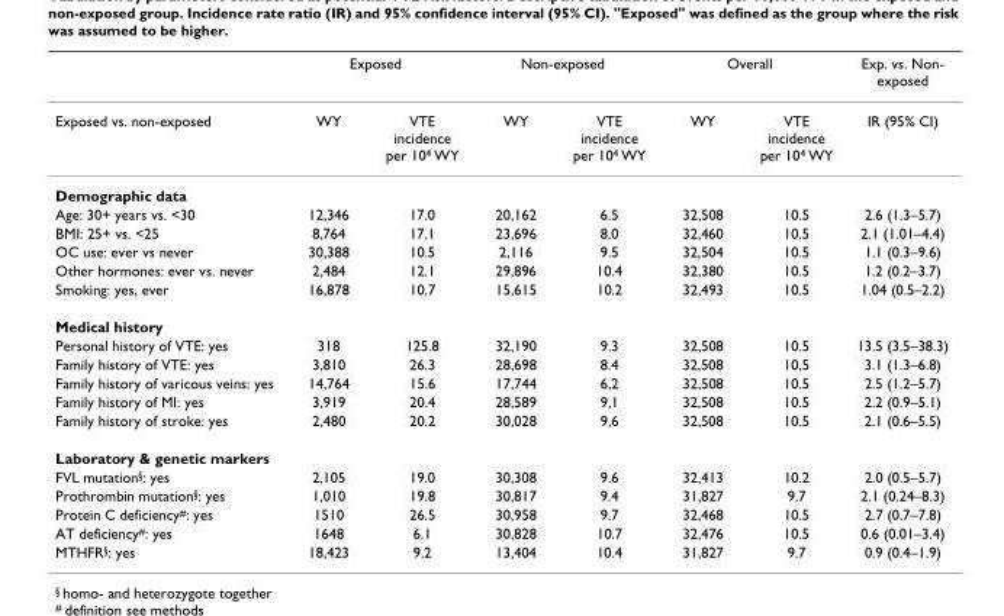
<table><thead><tr><td rowspan="2">Exposed vs. non-exposed</td><td colspan="2">Exposed</td><td colspan="2">Non-exposed</td><td colspan="2">Overall</td><td rowspan="2">Exp. vs. Non- exposed IR (95% CI)</td></tr><tr><td>WY</td><td>VTE incidence per 10<sup>4</sup> WY</td><td>WY</td><td>VTE incidence per 10<sup>4</sup> WY</td><td>WY</td><td>VTE incidence per 10<sup>4</sup> WY</td></tr></thead><tbody><tr><td colspan="8">Demographic data</td></tr><tr><td>Age: 30+ years vs. &lt;30</td><td>12,346</td><td>17.0</td><td>20,162</td><td>6.5</td><td>32,508</td><td>10.5</td><td>2.6 (1.3–5.7)</td></tr><tr><td>BMI: 25+ vs. &lt;25</td><td>8,764</td><td>17.1</td><td>23,696</td><td>8.0</td><td>32,460</td><td>10.5</td><td>2.1 (1.01–4.4)</td></tr><tr><td>OC use: ever vs never</td><td>30,388</td><td>10.5</td><td>2,116</td><td>9.5</td><td>32,504</td><td>10.5</td><td>1.1 (0.3–9.6)</td></tr><tr><td>Other hormones: ever vs. never</td><td>2,484</td><td>12.1</td><td>29,896</td><td>10.4</td><td>32,380</td><td>10.5</td><td>1.2 (0.2–3.7)</td></tr><tr><td>Smoking: yes, ever</td><td>16,878</td><td>10.7</td><td>15,615</td><td>10.2</td><td>32,493</td><td>10.5</td><td>1.04 (0.5–2.2)</td></tr><tr><td colspan="8">Medical history</td></tr><tr><td>Personal history of VTE: yes</td><td>318</td><td>125.8</td><td>32,190</td><td>9.3</td><td>32,508</td><td>10.5</td><td>13.5 (3.5–38.3)</td></tr><tr><td>Family history of VTE: yes</td><td>3,810</td><td>26.3</td><td>28,698</td><td>8.4</td><td>32,508</td><td>10,5</td><td>3.1 (1.3–6.8)</td></tr><tr><td>Family history of varicous veins: yes</td><td>14,764</td><td>15.6</td><td>17,744</td><td>6,2</td><td>32,508</td><td>10.5</td><td>2.5 (1.2–5.7)</td></tr><tr><td>Family history of MI: yes</td><td>3,919</td><td>20.4</td><td>28,589</td><td>9,1</td><td>32,508</td><td>10.5</td><td>2.2 (0.9–5.1)</td></tr><tr><td>Family history of stroke: yes</td><td>2,480</td><td>20.2</td><td>30,028</td><td>9,6</td><td>32,508</td><td>10.5</td><td>2.1 (0.6–5.5)</td></tr><tr><td colspan="8">Laboratory &amp; genetic markers</td></tr><tr><td>FVL mutation<sup>§</sup>: yes</td><td>2,105</td><td>19.0</td><td>30,308</td><td>9.6</td><td>32,413</td><td>10.2</td><td>2.0 (0.5–5.7)</td></tr><tr><td>Prothrombin mutation<sup>§</sup>: yes</td><td>1,010</td><td>19.8</td><td>30,817</td><td>9.4</td><td>31,827</td><td>9.7</td><td>2.1 (0.24–8.3)</td></tr><tr><td>Protein C deficiency<sup>#</sup>: yes</td><td>1510</td><td>26.5</td><td>30,958</td><td>9.7</td><td>32,468</td><td>10.5</td><td>2.7 (0.7–7.8)</td></tr><tr><td>AT deficiency<sup>#</sup>: yes</td><td>1648</td><td>6.1</td><td>30,828</td><td>10.7</td><td>32,476</td><td>10.5</td><td>0.6 (0.01–3.4)</td></tr><tr><td>MTHFR<sup>§</sup>: yes</td><td>18,423</td><td>9.2</td><td>13,404</td><td>10.4</td><td>31,827</td><td>9.7</td><td>0.9 (0.4–1.9)</td></tr></tbody></table>